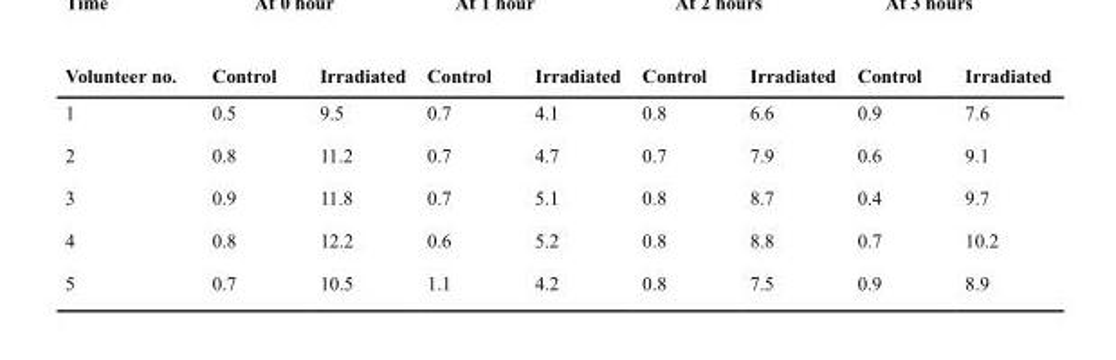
<table><thead><tr><td>Volunteer no.</td><td>Control</td><td>Irradiated</td><td>Control</td><td>Irradiated</td><td>Control</td><td>Irradiated</td><td>Control</td><td>Irradiated</td></tr></thead><tbody><tr><td>1</td><td>0.5</td><td>9.5</td><td>0.7</td><td>4.1</td><td>0.8</td><td>6.6</td><td>0.9</td><td>7.6</td></tr><tr><td>2</td><td>0.8</td><td>11.2</td><td>0.7</td><td>4.7</td><td>0.7</td><td>7.9</td><td>0.6</td><td>9.1</td></tr><tr><td>3</td><td>0.9</td><td>11.8</td><td>0.7</td><td>5.1</td><td>0.8</td><td>8.7</td><td>0.4</td><td>9.7</td></tr><tr><td>4</td><td>0.8</td><td>12.2</td><td>0.6</td><td>5.2</td><td>0.8</td><td>8.8</td><td>0.7</td><td>10.2</td></tr><tr><td>5</td><td>0.7</td><td>10.5</td><td>1.1</td><td>4.2</td><td>0.8</td><td>7.5</td><td>0.9</td><td>8.9</td></tr></tbody></table>